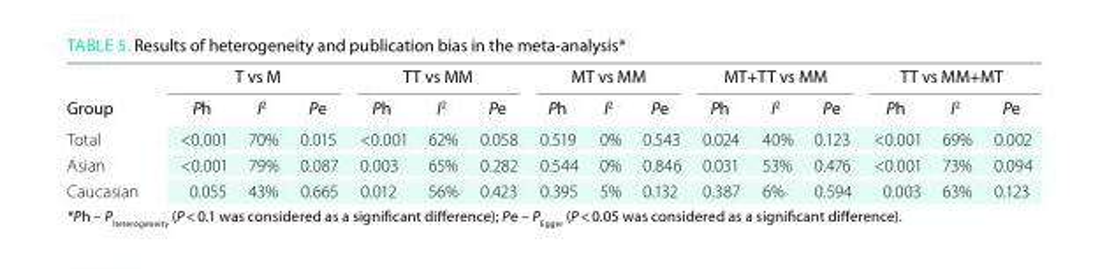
<table><thead><tr><td rowspan="2">Group</td><td colspan="3">t vs M</td><td colspan="3">tt vs MM</td><td colspan="3">Mt vs MM</td><td colspan="3">Mt+tt vs MM</td><td colspan="3">tt vs MM+Mt</td></tr><tr><td>Ph</td><td>I<sup>2</sup></td><td>Pe</td><td>Ph</td><td>I<sup>2</sup></td><td>Pe</td><td>Ph</td><td>I<sup>2</sup></td><td>Pe</td><td>Ph</td><td>I<sup>2</sup></td><td>Pe</td><td>Ph</td><td>I<sup>2</sup></td><td>Pe</td></tr></thead><tbody><tr><td>Total</td><td>&lt;0.001</td><td>70%</td><td>0.015</td><td>&lt;0.001</td><td>62%</td><td>0.058</td><td>0.519</td><td>0%</td><td>0.543</td><td>0.024</td><td>40%</td><td>0.123</td><td>&lt;0.001</td><td>69%</td><td>0.002</td></tr><tr><td>Asian</td><td>&lt;0.001</td><td>79%</td><td>0.087</td><td>0.003</td><td>65%</td><td>0.282</td><td>0.544</td><td>0%</td><td>0.846</td><td>0.031</td><td>53%</td><td>0.476</td><td>&lt;0.001</td><td>73%</td><td>0.094</td></tr><tr><td>Caucasian</td><td>0.055</td><td>43%</td><td>0.665</td><td>0.012</td><td>56%</td><td>0.423</td><td>0.395</td><td>5%</td><td>0.132</td><td>0.387</td><td>6%</td><td>0.594</td><td>0.003</td><td>63%</td><td>0.123</td></tr></tbody></table>